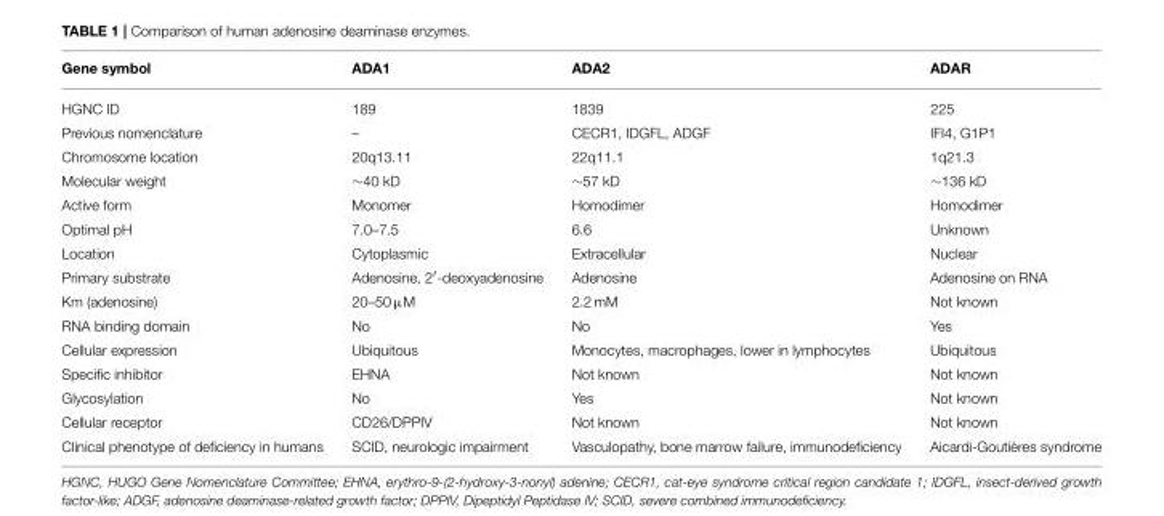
<table><thead><tr><td>Gene symbol</td><td>ADA1</td><td>ADA2</td><td>ADAR</td></tr></thead><tbody><tr><td>HGNC ID</td><td>189</td><td>1839</td><td>225</td></tr><tr><td>Previous nomenclature</td><td>–</td><td>CECR1, IDGFL, ADGF</td><td>IFI4, G1P1</td></tr><tr><td>Chromosome location</td><td>20q13.11</td><td>22q11.1</td><td>1q21.3</td></tr><tr><td>Molecular weight</td><td>∼40 kD</td><td>∼57 kD</td><td>∼136 kD</td></tr><tr><td>Active form</td><td>Monomer</td><td>Homodimer</td><td>Homodimer</td></tr><tr><td>Optimal pH</td><td>7.0–7.5</td><td>6.6</td><td>Unknown</td></tr><tr><td>Location</td><td>Cytoplasmic</td><td>Extracellular</td><td>Nuclear</td></tr><tr><td>Primary substrate</td><td>Adenosine, 2′-deoxyadenosine</td><td>Adenosine</td><td>Adenosine on RNA</td></tr><tr><td>Km (adenosine)</td><td>20–50 µM</td><td>2.2 mM</td><td>Not known</td></tr><tr><td>RNA binding domain</td><td>No</td><td>No</td><td>Yes</td></tr><tr><td>Cellular expression</td><td>Ubiquitous</td><td>Monocytes, macrophages, lower in lymphocytes</td><td>Ubiquitous</td></tr><tr><td>Specific inhibitor</td><td>EHNA</td><td>Not known</td><td>Not known</td></tr><tr><td>Glycosylation</td><td>No</td><td>Yes</td><td>Not known</td></tr><tr><td>Cellular receptor</td><td>CD26/DPPIV</td><td>Not known</td><td>Not known</td></tr><tr><td>Clinical phenotype of deficiency in humans</td><td>SCID, neurologic impairment</td><td>Vasculopathy, bone marrow failure, immunodeficiency</td><td>Aicardi-Goutières syndrome</td></tr></tbody></table>